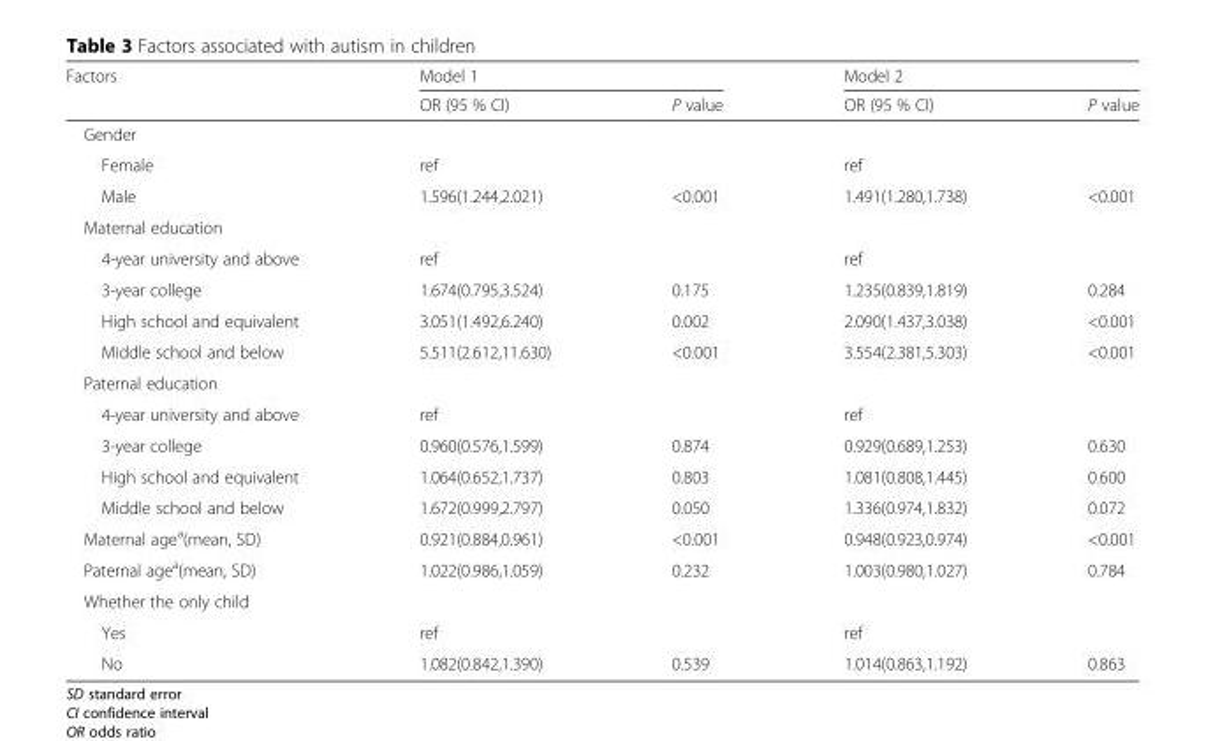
<table><thead><tr><td rowspan="2">Factors</td><td colspan="2">Model 1</td><td colspan="2">Model 2</td></tr><tr><td>OR (95 % CI)</td><td>P value</td><td>OR (95 % CI)</td><td>P value</td></tr></thead><tbody><tr><td colspan="5">Gender</td></tr><tr><td>Female</td><td>ref</td><td></td><td>ref</td><td></td></tr><tr><td>Male</td><td>1.596(1.244,2.021)</td><td>&lt;0.001</td><td>1.491(1.280,1.738)</td><td>&lt;0.001</td></tr><tr><td colspan="5">Maternal education</td></tr><tr><td>4-year university and above</td><td>ref</td><td></td><td>ref</td><td></td></tr><tr><td>3-year college</td><td>1.674(0.795,3.524)</td><td>0.175</td><td>1.235(0.839,1.819)</td><td>0.284</td></tr><tr><td>High school and equivalent</td><td>3.051(1.492,6.240)</td><td>0.002</td><td>2.090(1.437,3.038)</td><td>&lt;0.001</td></tr><tr><td>Middle school and below</td><td>5.511(2.612,11.630)</td><td>&lt;0.001</td><td>3.554(2.381,5.303)</td><td>&lt;0.001</td></tr><tr><td colspan="5">Paternal education</td></tr><tr><td>4-year university and above</td><td>ref</td><td></td><td>ref</td><td></td></tr><tr><td>3-year college</td><td>0.960(0.576,1.599)</td><td>0.874</td><td>0.929(0.689,1.253)</td><td>0.630</td></tr><tr><td>High school and equivalent</td><td>1.064(0.652,1.737)</td><td>0.803</td><td>1.081(0.808,1.445)</td><td>0.600</td></tr><tr><td>Middle school and below</td><td>1.672(0.999,2.797)</td><td>0.050</td><td>1.336(0.974,1.832)</td><td>0.072</td></tr><tr><td>Maternal age<sup>a</sup>(mean, SD)</td><td>0.921(0.884,0.961)</td><td>&lt;0.001</td><td>0.948(0.923,0.974)</td><td>&lt;0.001</td></tr><tr><td>Paternal age<sup>a</sup>(mean, SD)</td><td>1.022(0.986,1.059)</td><td>0.232</td><td>1.003(0.980,1.027)</td><td>0.784</td></tr><tr><td colspan="5">Whether the only child</td></tr><tr><td>Yes</td><td>ref</td><td></td><td>ref</td><td></td></tr><tr><td>No</td><td>1.082(0.842,1.390)</td><td>0.539</td><td>1.014(0.863,1.192)</td><td>0.863</td></tr></tbody></table>